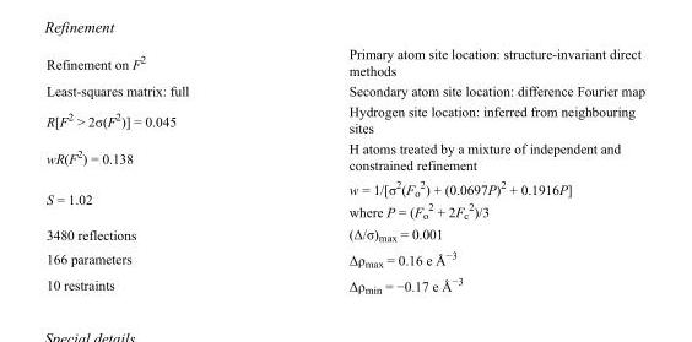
<table><tbody><tr><td>Refinement on F<sup>2</sup></td><td>Primary atom site location: structure-invariant direct methods</td></tr><tr><td>Least-squares matrix: full</td><td>Secondary atom site location: difference Fourier map</td></tr><tr><td>R[F<sup>2</sup> &gt; 2σ(F<sup>2</sup>)] = 0.045</td><td>Hydrogen site location: inferred from neighbouring sites</td></tr><tr><td>wR(F<sup>2</sup>) = 0.138</td><td>H atoms treated by a mixture of independent and constrained refinement</td></tr><tr><td>S = 1.02</td><td>w = 1/[σ<sup>2</sup>(F<sub>o</sub> <sup>2</sup>) + (0.0697P)<sup>2</sup> + 0.1916P] where P = (F<sub>o</sub> <sup>2</sup> + 2F<sub>c</sub> <sup>2</sup>)/3</td></tr><tr><td>3480 reflections</td><td>(Δ/σ)<sub>max</sub> = 0.001</td></tr><tr><td>166 parameters</td><td>Δρ<sub>max</sub> = 0.16 e Å<sup>−3</sup></td></tr><tr><td>10 restraints</td><td>Δρ<sub>min</sub> = −0.17 e Å<sup>−3</sup></td></tr></tbody></table>